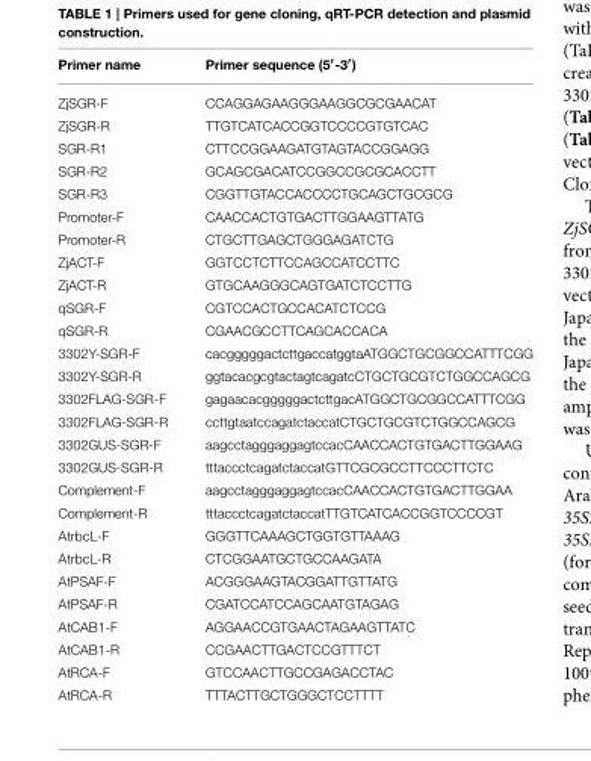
<table><thead><tr><td>Primer name</td><td>Primer sequence (5′-3′)</td></tr></thead><tbody><tr><td>ZjSGR-F</td><td>CCAGGAGAAGGGAAGGCGCGAACAT</td></tr><tr><td>ZjSGR-R</td><td>TTGTCATCACCGGTCCCCGTGTCAC</td></tr><tr><td>SGR-R1</td><td>CTTCCGGAAGATGTAGTACCGGAGG</td></tr><tr><td>SGR-R2</td><td>GCAGCGACATCCGGCCGCGCACCTT</td></tr><tr><td>SGR-R3</td><td>CGGTTGTACCACCCCTGCAGCTGCGCG</td></tr><tr><td>Promoter-F</td><td>CAACCACTGTGACTTGGAAGTTATG</td></tr><tr><td>Promoter-R</td><td>CTGCTTGAGCTGGGAGATCTG</td></tr><tr><td>ZjACT-F</td><td>GGTCCTCTTCCAGCCATCCTTC</td></tr><tr><td>ZjACT-R</td><td>GTGCAAGGGCAGTGATCTCCTTG</td></tr><tr><td>qSGR-F</td><td>CGTCCACTGCCACATCTCCG</td></tr><tr><td>qSGR-R</td><td>CGAACGCCTTCAGCACCACA</td></tr><tr><td>3302Y-SGR-F</td><td>cacgggggactcttgaccatggtaATGGCTGCGGCCATTTCGG</td></tr><tr><td>3302Y-SGR-R</td><td>ggtacacgcgtactagtcagatcCTGCTGCGTCTGGCCAGCG</td></tr><tr><td>3302FLAG-SGR-F</td><td>gagaacacgggggactcttgacATGGCTGCGGCCATTTCGG</td></tr><tr><td>3302FLAG-SGR-R</td><td>ccttgtaatccagatctaccatCTGCTGCGTCTGGCCAGCG</td></tr><tr><td>3302GUS-SGR-F</td><td>aagcctagggaggagtccacCAACCACTGTGACTTGGAAG</td></tr><tr><td>3302GUS-SGR-R</td><td>tttaccctcagatctaccatGTTCGCGCCTTCCCTTCTC</td></tr><tr><td>Complement-F</td><td>aagcctagggaggagtccacCAACCACTGTGACTTGGAA</td></tr><tr><td>Complement-R</td><td>tttaccctcagatctaccatTTGTCATCACCGGTCCCCGT</td></tr><tr><td>AtrbcL-F</td><td>GGGTTCAAAGCTGGTGTTAAAG</td></tr><tr><td>AtrbcL-R</td><td>CTCGGAATGCTGCCAAGATA</td></tr><tr><td>AtPSAF-F</td><td>ACGGGAAGTACGGATTGTTATG</td></tr><tr><td>AtPSAF-R</td><td>CGATCCATCCAGCAATGTAGAG</td></tr><tr><td>AtCAB1-F</td><td>AGGAACCGTGAACTAGAAGTTATC</td></tr><tr><td>AtCAB1-R</td><td>CCGAACTTGACTCCGTTTCT</td></tr><tr><td>AtRCA-F</td><td>GTCCAACTTGCCGAGACCTAC</td></tr><tr><td>AtRCA-R</td><td>TTTACTTGCTGGGCTCCTTTT</td></tr></tbody></table>